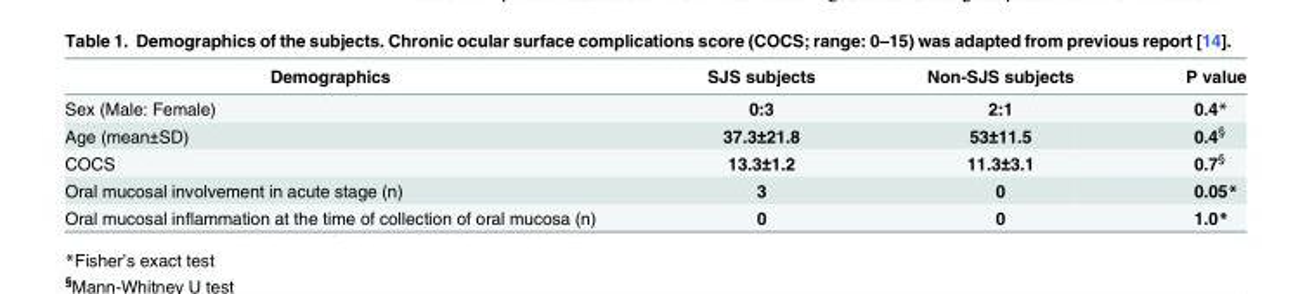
<table><thead><tr><td>Demographics</td><td>SJS subjects</td><td>Non-SJS subjects</td><td>P value</td></tr></thead><tbody><tr><td>Sex (Male: Female)</td><td>0:3</td><td>2:1</td><td>0.4*</td></tr><tr><td>Age (mean±SD)</td><td>37.3±21.8</td><td>53±11.5</td><td>0.4<sup>§</sup></td></tr><tr><td>COCS</td><td>13.3±1.2</td><td>11.3±3.1</td><td>0.7<sup>§</sup></td></tr><tr><td>Oral mucosal involvement in acute stage (n)</td><td>3</td><td>0</td><td>0.05*</td></tr><tr><td>Oral mucosal inflammation at the time of collection of oral mucosa (n)</td><td>0</td><td>0</td><td>1.0*</td></tr></tbody></table>